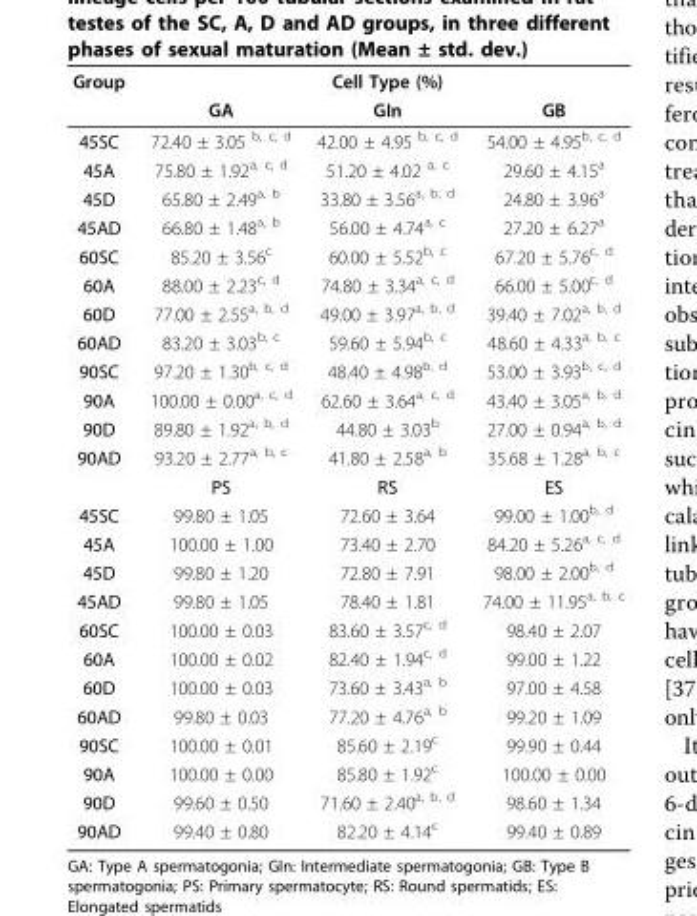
<table><thead><tr><td rowspan="2">Group</td><td colspan="3">Cell Type (%)</td></tr><tr><td>GA</td><td>GIn</td><td>GB</td></tr></thead><tbody><tr><td>45SC</td><td>72.40 ± 3.05 <sup>b, c, d</sup></td><td>42.00 ± 4.95 <sup>b, c, d</sup></td><td>54.00 ± 4.95<sup>b, c, d</sup></td></tr><tr><td>45A</td><td>75.80 ± 1.92<sup>a, c, d</sup></td><td>51.20 ± 4.02 <sup>a, c</sup></td><td>29.60 ± 4.15<sup>a</sup></td></tr><tr><td>45D</td><td>65.80 ± 2.49<sup>a, b</sup></td><td>33.80 ± 3.56<sup>a, b, d</sup></td><td>24.80 ± 3.96<sup>a</sup></td></tr><tr><td>45AD</td><td>66.80 ± 1.48<sup>a, b</sup></td><td>56.00 ± 4.74<sup>a, c</sup></td><td>27.20 ± 6.27<sup>a</sup></td></tr><tr><td>60SC</td><td>85.20 ± 3.56<sup>c</sup></td><td>60.00 ± 5.52<sup>b, c</sup></td><td>67.20 ± 5.76<sup>c, d</sup></td></tr><tr><td>60A</td><td>88.00 ± 2.23<sup>c, d</sup></td><td>74.80 ± 3.34<sup>a, c, d</sup></td><td>66.00 ± 5.00<sup>c, d</sup></td></tr><tr><td>60D</td><td>77.00 ± 2.55<sup>a, b, d</sup></td><td>49.00 ± 3.97<sup>a, b, d</sup></td><td>39.40 ± 7.02<sup>a, b, d</sup></td></tr><tr><td>60AD</td><td>83.20 ± 3.03<sup>b, c</sup></td><td>59.60 ± 5.94<sup>b, c</sup></td><td>48.60 ± 4.33<sup>a, b, c</sup></td></tr><tr><td>90SC</td><td>97.20 ± 1.30<sup>b, c, d</sup></td><td>48.40 ± 4.98<sup>b, d</sup></td><td>53.00 ± 3.93<sup>b, c, d</sup></td></tr><tr><td>90A</td><td>100.00 ± 0.00<sup>a, c, d</sup></td><td>62.60 ± 3.64<sup>a, c, d</sup></td><td>43.40 ± 3.05<sup>a, b, d</sup></td></tr><tr><td>90D</td><td>89.80 ± 1.92<sup>a, b, d</sup></td><td>44.80 ± 3.03<sup>b</sup></td><td>27.00 ± 0.94<sup>a, b, d</sup></td></tr><tr><td rowspan="2">90AD</td><td>93.20 ± 2.77<sup>a, b, c</sup></td><td>41.80 ± 2.58<sup>a, b</sup></td><td>35.68 ± 1.28<sup>a, b, c</sup></td></tr><tr><td>PS</td><td>RS</td><td>ES</td></tr><tr><td>45SC</td><td>99.80 ± 1.05</td><td>72.60 ± 3.64</td><td>99.00 ± 1.00<sup>b, d</sup></td></tr><tr><td>45A</td><td>100.00 ± 1.00</td><td>73.40 ± 2.70</td><td>84.20 ± 5.26<sup>a, c, d</sup></td></tr><tr><td>45D</td><td>99.80 ± 1.20</td><td>72.80 ± 7.91</td><td>98.00 ± 2.00<sup>b, d</sup></td></tr><tr><td>45AD</td><td>99.80 ± 1.05</td><td>78.40 ± 1.81</td><td>74.00 ± 11.95<sup>a, b, c</sup></td></tr><tr><td>60SC</td><td>100.00 ± 0.03</td><td>83.60 ± 3.57<sup>c, d</sup></td><td>98.40 ± 2.07</td></tr><tr><td>60A</td><td>100.00 ± 0.02</td><td>82.40 ± 1.94<sup>c, d</sup></td><td>99.00 ± 1.22</td></tr><tr><td>60D</td><td>100.00 ± 0.03</td><td>73.60 ± 3.43<sup>a, b</sup></td><td>97.00 ± 4.58</td></tr><tr><td>60AD</td><td>99.80 ± 0.03</td><td>77.20 ± 4.76<sup>a, b</sup></td><td>99.20 ± 1.09</td></tr><tr><td>90SC</td><td>100.00 ± 0.01</td><td>85.60 ± 2.19<sup>c</sup></td><td>99.90 ± 0.44</td></tr><tr><td>90A</td><td>100.00 ± 0.00</td><td>85.80 ± 1.92<sup>c</sup></td><td>100.00 ± 0.00</td></tr><tr><td>90D</td><td>99.60 ± 0.50</td><td>71.60 ± 2.40<sup>a, b, d</sup></td><td>98.60 ± 1.34</td></tr><tr><td>90AD</td><td>99.40 ± 0.80</td><td>82.20 ± 4.14<sup>c</sup></td><td>99.40 ± 0.89</td></tr></tbody></table>